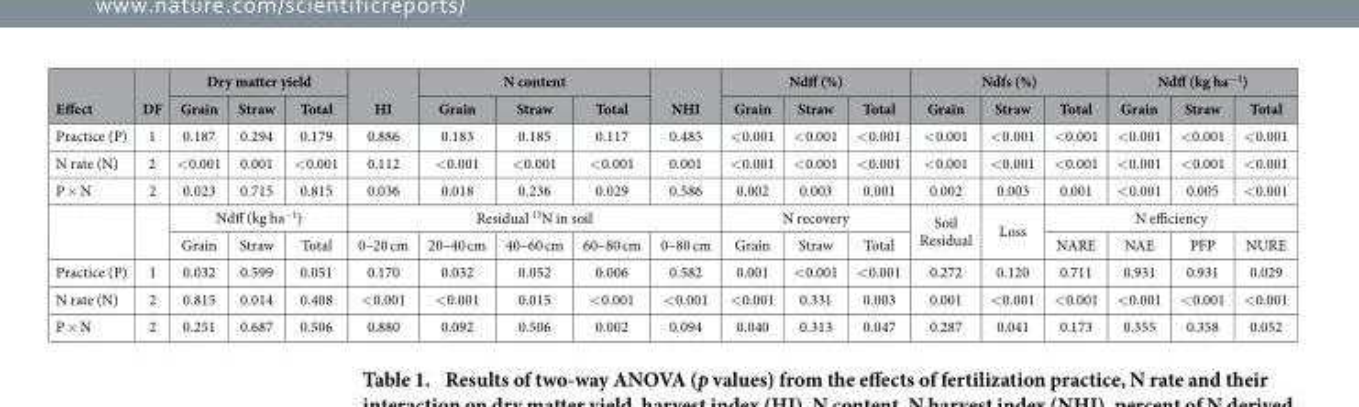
<table><thead><tr><td rowspan="2">Effect</td><td rowspan="2">DF</td><td colspan="3">Dry matter yield</td><td rowspan="2">HI</td><td colspan="3">N content</td><td rowspan="2">NHI</td><td colspan="3">Ndff (%)</td><td colspan="3">Ndfs (%)</td><td colspan="3">Ndff (kg ha<sup>−1</sup>)</td></tr><tr><td>Grain</td><td>Straw</td><td>Total</td><td>Grain</td><td>Straw</td><td>Total</td><td>Grain</td><td>Straw</td><td>Total</td><td>Grain</td><td>Straw</td><td>Total</td><td>Grain</td><td>Straw</td><td>Total</td></tr></thead><tbody><tr><td>Practice (P)</td><td>1</td><td>0.187</td><td>0.294</td><td>0.179</td><td>0.886</td><td>0.183</td><td>0.185</td><td>0.117</td><td>0.485</td><td>&lt; 0.001</td><td>&lt; 0.001</td><td>&lt; 0.001</td><td>&lt; 0.001</td><td>&lt; 0.001</td><td>&lt; 0.001</td><td>&lt; 0.001</td><td>&lt; 0.001</td><td>&lt; 0.001</td></tr><tr><td>N rate (N)</td><td>2</td><td>&lt; 0.001</td><td>0.001</td><td>&lt; 0.001</td><td>0.112</td><td>&lt; 0.001</td><td>&lt; 0.001</td><td>&lt; 0.001</td><td>0.001</td><td>&lt; 0.001</td><td>&lt; 0.001</td><td>&lt; 0.001</td><td>&lt; 0.001</td><td>&lt; 0.001</td><td>&lt; 0.001</td><td>&lt; 0.001</td><td>&lt; 0.001</td><td>&lt; 0.001</td></tr><tr><td rowspan="3">P × N</td><td>2</td><td>0.023</td><td>0.715</td><td>0.815</td><td>0.036</td><td>0.018</td><td>0.236</td><td>0.029</td><td>0.586</td><td>0.002</td><td>0.003</td><td>0.001</td><td>0.002</td><td>0.003</td><td>0.001</td><td>&lt; 0.001</td><td>0.005</td><td>&lt; 0.001</td></tr><tr><td rowspan="2"></td><td colspan="3">Ndff (kg ha<sup>−1</sup>)</td><td colspan="5">Residual <sup>15</sup>N in soil</td><td colspan="3">N recovery</td><td rowspan="2">Soil Residual</td><td rowspan="2">Loss</td><td colspan="4">N efficiency</td></tr><tr><td>Grain</td><td>Straw</td><td>Total</td><td>0–20 cm</td><td>20–40 cm</td><td>40–60 cm</td><td>60–80 cm</td><td>0–80 cm</td><td>Grain</td><td>Straw</td><td>Total</td><td>NARE</td><td>NAE</td><td>PFP</td><td>NURE</td></tr><tr><td>Practice (P)</td><td>1</td><td>0.032</td><td>0.599</td><td>0.051</td><td>0.170</td><td>0.032</td><td>0.052</td><td>0.006</td><td>0.582</td><td>0.001</td><td>&lt; 0.001</td><td>&lt; 0.001</td><td>0.272</td><td>0.120</td><td>0.711</td><td>0.931</td><td>0.931</td><td>0.029</td></tr><tr><td>N rate (N)</td><td>2</td><td>0.815</td><td>0.014</td><td>0.408</td><td>&lt; 0.001</td><td>&lt; 0.001</td><td>0.015</td><td>&lt; 0.001</td><td>&lt; 0.001</td><td>&lt; 0.001</td><td>0.331</td><td>0.003</td><td>0.001</td><td>&lt; 0.001</td><td>&lt; 0.001</td><td>&lt; 0.001</td><td>&lt; 0.001</td><td>&lt; 0.001</td></tr><tr><td>P × N</td><td>2</td><td>0.251</td><td>0.687</td><td>0.506</td><td>0.880</td><td>0.092</td><td>0.506</td><td>0.002</td><td>0.094</td><td>0.040</td><td>0.313</td><td>0.047</td><td>0.287</td><td>0.041</td><td>0.173</td><td>0.355</td><td>0.358</td><td>0.052</td></tr></tbody></table>